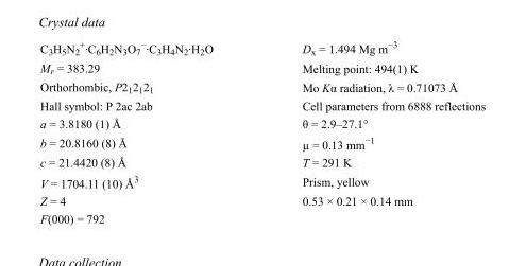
<table><tbody><tr><td>C<sub>3</sub>H<sub>5</sub>N<sub>2</sub> <sup>+</sup>·C<sub>6</sub>H<sub>2</sub>N<sub>3</sub>O<sub>7</sub> <sup>−</sup>·C<sub>3</sub>H<sub>4</sub>N<sub>2</sub>·H<sub>2</sub>O</td><td>D<sub>x</sub> = 1.494 Mg m<sup>−3</sup></td></tr><tr><td>M<sub>r</sub> = 383.29</td><td>Melting point: 494(1) K</td></tr><tr><td>Orthorhombic, P2<sub>1</sub>2<sub>1</sub>2<sub>1</sub></td><td>Mo Kα radiation, λ = 0.71073 Å</td></tr><tr><td>Hall symbol: P 2ac 2ab</td><td>Cell parameters from 6888 reflections</td></tr><tr><td>a = 3.8180 (1) Å</td><td>θ = 2.9–27.1°</td></tr><tr><td>b = 20.8160 (8) Å</td><td>µ = 0.13 mm<sup>−1</sup></td></tr><tr><td>c = 21.4420 (8) Å</td><td>T = 291 K</td></tr><tr><td>V = 1704.11 (10) Å<sup>3</sup></td><td>Prism, yellow</td></tr><tr><td>Z = 4</td><td>0.53 × 0.21 × 0.14 mm</td></tr><tr><td>F(000) = 792</td><td></td></tr></tbody></table>